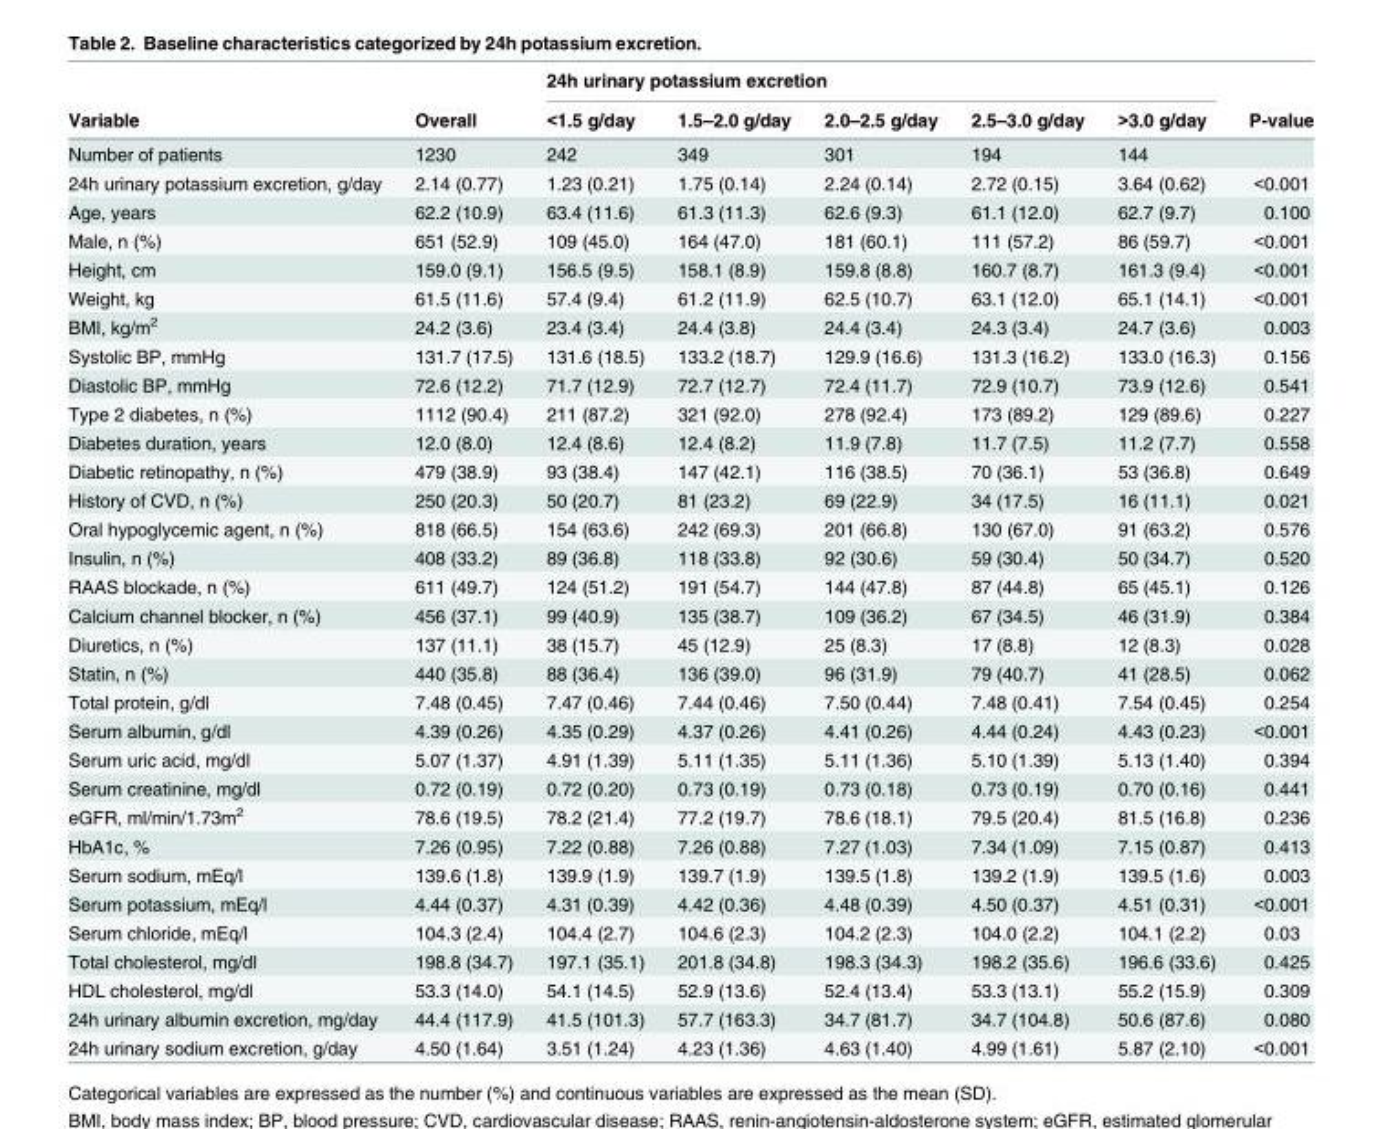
<table><thead><tr><td rowspan="2">Variable</td><td rowspan="2">Overall</td><td colspan="5">24h urinary potassium excretion</td><td rowspan="2">P-value</td></tr><tr><td>&lt;1.5 g/day</td><td>1.5–2.0 g/day</td><td>2.0–2.5 g/day</td><td>2.5–3.0 g/day</td><td>&gt;3.0 g/day</td></tr></thead><tbody><tr><td>Number of patients</td><td>1230</td><td>242</td><td>349</td><td>301</td><td>194</td><td>144</td><td></td></tr><tr><td>24h urinary potassium excretion, g/day</td><td>2.14 (0.77)</td><td>1.23 (0.21)</td><td>1.75 (0.14)</td><td>2.24 (0.14)</td><td>2.72 (0.15)</td><td>3.64 (0.62)</td><td>&lt;0.001</td></tr><tr><td>Age, years</td><td>62.2 (10.9)</td><td>63.4 (11.6)</td><td>61.3 (11.3)</td><td>62.6 (9.3)</td><td>61.1 (12.0)</td><td>62.7 (9.7)</td><td>0.100</td></tr><tr><td>Male, n (%)</td><td>651 (52.9)</td><td>109 (45.0)</td><td>164 (47.0)</td><td>181 (60.1)</td><td>111 (57.2)</td><td>86 (59.7)</td><td>&lt;0.001</td></tr><tr><td>Height, cm</td><td>159.0 (9.1)</td><td>156.5 (9.5)</td><td>158.1 (8.9)</td><td>159.8 (8.8)</td><td>160.7 (8.7)</td><td>161.3 (9.4)</td><td>&lt;0.001</td></tr><tr><td>Weight, kg</td><td>61.5 (11.6)</td><td>57.4 (9.4)</td><td>61.2 (11.9)</td><td>62.5 (10.7)</td><td>63.1 (12.0)</td><td>65.1 (14.1)</td><td>&lt;0.001</td></tr><tr><td>BMI, kg/m<sup>2</sup></td><td>24.2 (3.6)</td><td>23.4 (3.4)</td><td>24.4 (3.8)</td><td>24.4 (3.4)</td><td>24.3 (3.4)</td><td>24.7 (3.6)</td><td>0.003</td></tr><tr><td>Systolic BP, mmHg</td><td>131.7 (17.5)</td><td>131.6 (18.5)</td><td>133.2 (18.7)</td><td>129.9 (16.6)</td><td>131.3 (16.2)</td><td>133.0 (16.3)</td><td>0.156</td></tr><tr><td>Diastolic BP, mmHg</td><td>72.6 (12.2)</td><td>71.7 (12.9)</td><td>72.7 (12.7)</td><td>72.4 (11.7)</td><td>72.9 (10.7)</td><td>73.9 (12.6)</td><td>0.541</td></tr><tr><td>Type 2 diabetes, n (%)</td><td>1112 (90.4)</td><td>211 (87.2)</td><td>321 (92.0)</td><td>278 (92.4)</td><td>173 (89.2)</td><td>129 (89.6)</td><td>0.227</td></tr><tr><td>Diabetes duration, years</td><td>12.0 (8.0)</td><td>12.4 (8.6)</td><td>12.4 (8.2)</td><td>11.9 (7.8)</td><td>11.7 (7.5)</td><td>11.2 (7.7)</td><td>0.558</td></tr><tr><td>Diabetic retinopathy, n (%)</td><td>479 (38.9)</td><td>93 (38.4)</td><td>147 (42.1)</td><td>116 (38.5)</td><td>70 (36.1)</td><td>53 (36.8)</td><td>0.649</td></tr><tr><td>History of CVD, n (%)</td><td>250 (20.3)</td><td>50 (20.7)</td><td>81 (23.2)</td><td>69 (22.9)</td><td>34 (17.5)</td><td>16 (11.1)</td><td>0.021</td></tr><tr><td>Oral hypoglycemic agent, n (%)</td><td>818 (66.5)</td><td>154 (63.6)</td><td>242 (69.3)</td><td>201 (66.8)</td><td>130 (67.0)</td><td>91 (63.2)</td><td>0.576</td></tr><tr><td>Insulin, n (%)</td><td>408 (33.2)</td><td>89 (36.8)</td><td>118 (33.8)</td><td>92 (30.6)</td><td>59 (30.4)</td><td>50 (34.7)</td><td>0.520</td></tr><tr><td>RAAS blockade, n (%)</td><td>611 (49.7)</td><td>124 (51.2)</td><td>191 (54.7)</td><td>144 (47.8)</td><td>87 (44.8)</td><td>65 (45.1)</td><td>0.126</td></tr><tr><td>Calcium channel blocker, n (%)</td><td>456 (37.1)</td><td>99 (40.9)</td><td>135 (38.7)</td><td>109 (36.2)</td><td>67 (34.5)</td><td>46 (31.9)</td><td>0.384</td></tr><tr><td>Diuretics, n (%)</td><td>137 (11.1)</td><td>38 (15.7)</td><td>45 (12.9)</td><td>25 (8.3)</td><td>17 (8.8)</td><td>12 (8.3)</td><td>0.028</td></tr><tr><td>Statin, n (%)</td><td>440 (35.8)</td><td>88 (36.4)</td><td>136 (39.0)</td><td>96 (31.9)</td><td>79 (40.7)</td><td>41 (28.5)</td><td>0.062</td></tr><tr><td>Total protein, g/dl</td><td>7.48 (0.45)</td><td>7.47 (0.46)</td><td>7.44 (0.46)</td><td>7.50 (0.44)</td><td>7.48 (0.41)</td><td>7.54 (0.45)</td><td>0.254</td></tr><tr><td>Serum albumin, g/dl</td><td>4.39 (0.26)</td><td>4.35 (0.29)</td><td>4.37 (0.26)</td><td>4.41 (0.26)</td><td>4.44 (0.24)</td><td>4.43 (0.23)</td><td>&lt;0.001</td></tr><tr><td>Serum uric acid, mg/dl</td><td>5.07 (1.37)</td><td>4.91 (1.39)</td><td>5.11 (1.35)</td><td>5.11 (1.36)</td><td>5.10 (1.39)</td><td>5.13 (1.40)</td><td>0.394</td></tr><tr><td>Serum creatinine, mg/dl</td><td>0.72 (0.19)</td><td>0.72 (0.20)</td><td>0.73 (0.19)</td><td>0.73 (0.18)</td><td>0.73 (0.19)</td><td>0.70 (0.16)</td><td>0.441</td></tr><tr><td>eGFR, ml/min/1.73m<sup>2</sup></td><td>78.6 (19.5)</td><td>78.2 (21.4)</td><td>77.2 (19.7)</td><td>78.6 (18.1)</td><td>79.5 (20.4)</td><td>81.5 (16.8)</td><td>0.236</td></tr><tr><td>HbA1c, %</td><td>7.26 (0.95)</td><td>7.22 (0.88)</td><td>7.26 (0.88)</td><td>7.27 (1.03)</td><td>7.34 (1.09)</td><td>7.15 (0.87)</td><td>0.413</td></tr><tr><td>Serum sodium, mEq/l</td><td>139.6 (1.8)</td><td>139.9 (1.9)</td><td>139.7 (1.9)</td><td>139.5 (1.8)</td><td>139.2 (1.9)</td><td>139.5 (1.6)</td><td>0.003</td></tr><tr><td>Serum potassium, mEq/l</td><td>4.44 (0.37)</td><td>4.31 (0.39)</td><td>4.42 (0.36)</td><td>4.48 (0.39)</td><td>4.50 (0.37)</td><td>4.51 (0.31)</td><td>&lt;0.001</td></tr><tr><td>Serum chloride, mEq/l</td><td>104.3 (2.4)</td><td>104.4 (2.7)</td><td>104.6 (2.3)</td><td>104.2 (2.3)</td><td>104.0 (2.2)</td><td>104.1 (2.2)</td><td>0.03</td></tr><tr><td>Total cholesterol, mg/dl</td><td>198.8 (34.7)</td><td>197.1 (35.1)</td><td>201.8 (34.8)</td><td>198.3 (34.3)</td><td>198.2 (35.6)</td><td>196.6 (33.6)</td><td>0.425</td></tr><tr><td>HDL cholesterol, mg/dl</td><td>53.3 (14.0)</td><td>54.1 (14.5)</td><td>52.9 (13.6)</td><td>52.4 (13.4)</td><td>53.3 (13.1)</td><td>55.2 (15.9)</td><td>0.309</td></tr><tr><td>24h urinary albumin excretion, mg/day</td><td>44.4 (117.9)</td><td>41.5 (101.3)</td><td>57.7 (163.3)</td><td>34.7 (81.7)</td><td>34.7 (104.8)</td><td>50.6 (87.6)</td><td>0.080</td></tr><tr><td>24h urinary sodium excretion, g/day</td><td>4.50 (1.64)</td><td>3.51 (1.24)</td><td>4.23 (1.36)</td><td>4.63 (1.40)</td><td>4.99 (1.61)</td><td>5.87 (2.10)</td><td>&lt;0.001</td></tr></tbody></table>